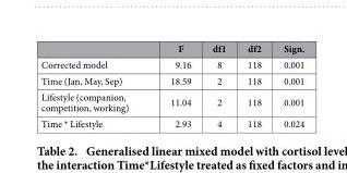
<table><thead><tr><td></td><td>F</td><td>df1</td><td>df2</td><td>Sign.</td></tr></thead><tbody><tr><td>Corrected model</td><td>9.16</td><td>8</td><td>118</td><td>0.001</td></tr><tr><td>Time (Jan, May, Sep)</td><td>18.59</td><td>2</td><td>118</td><td>0.001</td></tr><tr><td>Lifestyle (companion, competition, working)</td><td>11.04</td><td>2</td><td>118</td><td>0.001</td></tr><tr><td>Time * Lifestyle</td><td>2.93</td><td>4</td><td>118</td><td>0.024</td></tr></tbody></table>